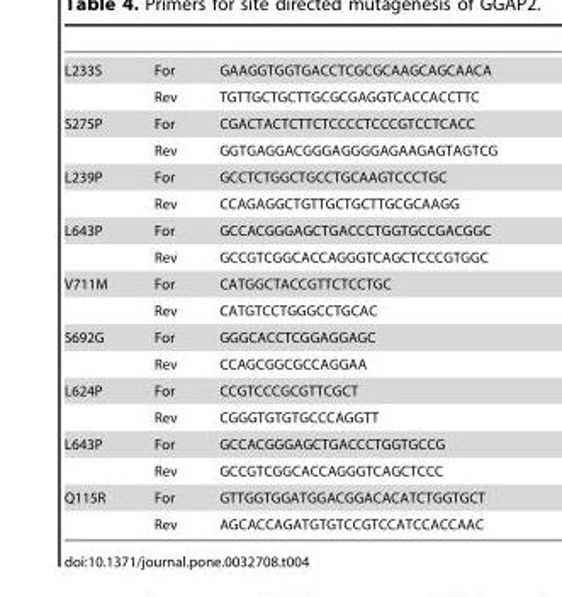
<table><tbody><tr><td rowspan="2">L233S</td><td>For</td><td>GAAGGTGGTGACCTCGCGCAAGCAGCAACA</td></tr><tr><td>Rev</td><td>TGTTGCTGCTTGCGCGAGGTCACCACCTTC</td></tr><tr><td rowspan="2">S275P</td><td>For</td><td>CGACTACTCTTCTCCCCTCCCGTCCTCACC</td></tr><tr><td>Rev</td><td>GGTGAGGACGGGAGGGGAGAAGAGTAGTCG</td></tr><tr><td rowspan="2">L239P</td><td>For</td><td>GCCTCTGGCTGCCTGCAAGTCCCTGC</td></tr><tr><td>Rev</td><td>CCAGAGGCTGTTGCTGCTTGCGCAAGG</td></tr><tr><td rowspan="2">L643P</td><td>For</td><td>GCCACGGGAGCTGACCCTGGTGCCGACGGC</td></tr><tr><td>Rev</td><td>GCCGTCGGCACCAGGGTCAGCTCCCGTGGC</td></tr><tr><td rowspan="2">V711M</td><td>For</td><td>CATGGCTACCGTTCTCCTGC</td></tr><tr><td>Rev</td><td>CATGTCCTGGGCCTGCAC</td></tr><tr><td rowspan="2">S692G</td><td>For</td><td>GGGCACCTCGGAGGAGC</td></tr><tr><td>Rev</td><td>CCAGCGGCGCCAGGAA</td></tr><tr><td rowspan="2">L624P</td><td>For</td><td>CCGTCCCGCGTTCGCT</td></tr><tr><td>Rev</td><td>CGGGTGTGTGCCCAGGTT</td></tr><tr><td rowspan="2">L643P</td><td>For</td><td>GCCACGGGAGCTGACCCTGGTGCCG</td></tr><tr><td>Rev</td><td>GCCGTCGGCACCAGGGTCAGCTCCC</td></tr><tr><td rowspan="2">Q115R</td><td>For</td><td>GTTGGTGGATGGACGGACACATCTGGTGCT</td></tr><tr><td>Rev</td><td>AGCACCAGATGTGTCCGTCCATCCACCAAC</td></tr></tbody></table>